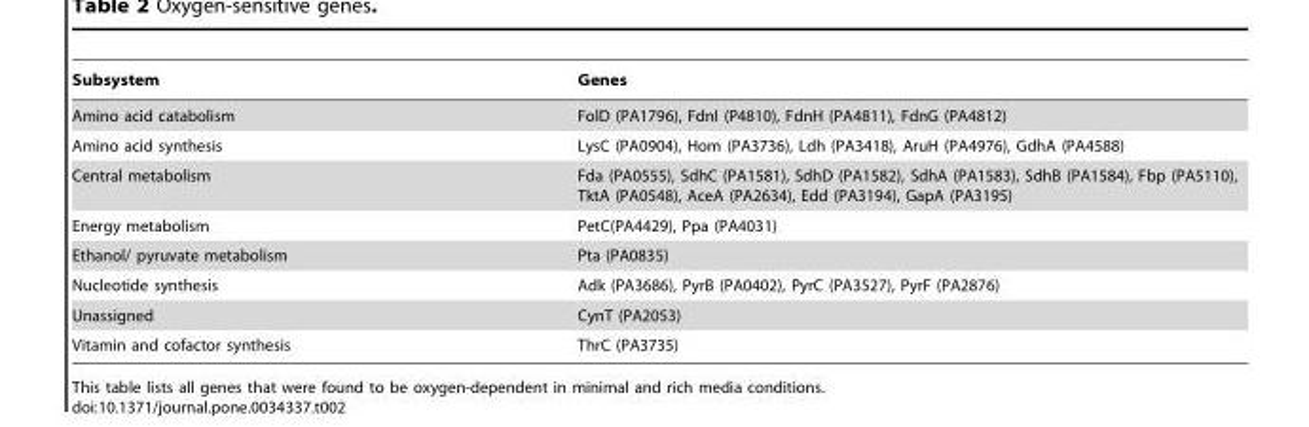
<table><thead><tr><td>Subsystem</td><td>Genes</td></tr></thead><tbody><tr><td>Amino acid catabolism</td><td>FolD (PA1796), FdnI (P4810), FdnH (PA4811), FdnG (PA4812)</td></tr><tr><td>Amino acid synthesis</td><td>LysC (PA0904), Hom (PA3736), Ldh (PA3418), AruH (PA4976), GdhA (PA4588)</td></tr><tr><td>Central metabolism</td><td>Fda (PA0555), SdhC (PA1581), SdhD (PA1582), SdhA (PA1583), SdhB (PA1584), Fbp (PA5110), TktA (PA0548), AceA (PA2634), Edd (PA3194), GapA (PA3195)</td></tr><tr><td>Energy metabolism</td><td>PetC(PA4429), Ppa (PA4031)</td></tr><tr><td>Ethanol/ pyruvate metabolism</td><td>Pta (PA0835)</td></tr><tr><td>Nucleotide synthesis</td><td>Adk (PA3686), PyrB (PA0402), PyrC (PA3527), PyrF (PA2876)</td></tr><tr><td>Unassigned</td><td>CynT (PA2053)</td></tr><tr><td>Vitamin and cofactor synthesis</td><td>ThrC (PA3735)</td></tr></tbody></table>